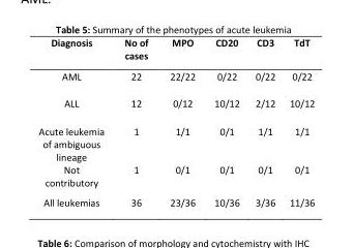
<table><thead><tr><td>Diagnosis</td><td>No of cases</td><td>MPO</td><td>CD20</td><td>CD3</td><td>TdT</td></tr></thead><tbody><tr><td>AML</td><td>22</td><td>22/22</td><td>0/22</td><td>0/22</td><td>0/22</td></tr><tr><td>ALL</td><td>12</td><td>0/12</td><td>10/12</td><td>2/12</td><td>10/12</td></tr><tr><td>Acute leukemia of ambiguous lineage</td><td>1</td><td>1/1</td><td>0/1</td><td>1/1</td><td>1/1</td></tr><tr><td>Not contributory</td><td>1</td><td>0/1</td><td>0/1</td><td>0/1</td><td>0/1</td></tr><tr><td>All leukemias</td><td>36</td><td>23/36</td><td>10/36</td><td>3/36</td><td>11/36</td></tr></tbody></table>